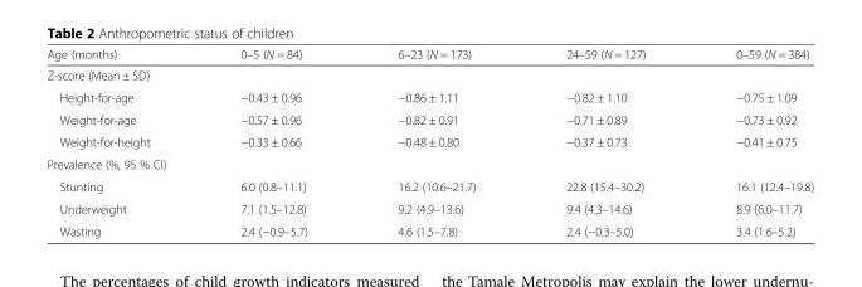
<table><thead><tr><td>Age (months)</td><td>0–5 (N = 84)</td><td>6–23 (N = 173)</td><td>24–59 (N = 127)</td><td>0–59 (N = 384)</td></tr></thead><tbody><tr><td colspan="5">Z-score (Mean ± SD)</td></tr><tr><td>Height-for-age</td><td>−0.43 ± 0.96</td><td>−0.86 ± 1.11</td><td>−0.82 ± 1.10</td><td>−0.75 ± 1.09</td></tr><tr><td>Weight-for-age</td><td>−0.57 ± 0.96</td><td>−0.82 ± 0.91</td><td>−0.71 ± 0.89</td><td>−0.73 ± 0.92</td></tr><tr><td>Weight-for-height</td><td>−0.33 ± 0.66</td><td>−0.48 ± 0.80</td><td>−0.37 ± 0.73</td><td>−0.41 ± 0.75</td></tr><tr><td colspan="5">Prevalence (%, 95 % CI)</td></tr><tr><td>Stunting</td><td>6.0 (0.8–11.1)</td><td>16.2 (10.6–21.7)</td><td>22.8 (15.4–30.2)</td><td>16.1 (12.4–19.8)</td></tr><tr><td>Underweight</td><td>7.1 (1.5–12.8)</td><td>9.2 (4.9–13.6)</td><td>9.4 (4.3–14.6)</td><td>8.9 (6.0–11.7)</td></tr><tr><td>Wasting</td><td>2.4 (−0.9–5.7)</td><td>4.6 (1.5–7.8)</td><td>2.4 (−0.3–5.0)</td><td>3.4 (1.6–5.2)</td></tr></tbody></table>